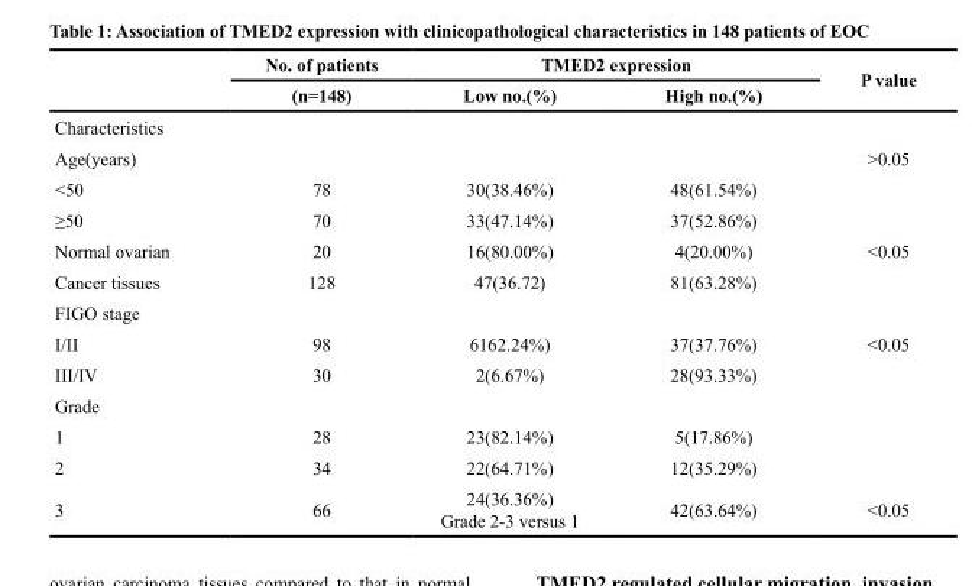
<table><thead><tr><td rowspan="2"></td><td rowspan="2">No. of patients (n=148)</td><td colspan="2">TMED2 expression</td><td rowspan="2">P value</td></tr><tr><td>Low no.(%)</td><td>High no.(%)</td></tr></thead><tbody><tr><td colspan="5">Characteristics</td></tr><tr><td>Age(years)</td><td></td><td></td><td></td><td>&gt;0.05</td></tr><tr><td>&lt;50</td><td>78</td><td>30(38.46%)</td><td>48(61.54%)</td><td></td></tr><tr><td>≥50</td><td>70</td><td>33(47.14%)</td><td>37(52.86%)</td><td></td></tr><tr><td>Normal ovarian</td><td>20</td><td>16(80.00%)</td><td>4(20.00%)</td><td>&lt;0.05</td></tr><tr><td>Cancer tissues</td><td>128</td><td>47(36.72)</td><td>81(63.28%)</td><td></td></tr><tr><td colspan="5">FIGO stage</td></tr><tr><td>I/II</td><td>98</td><td>6162.24%)</td><td>37(37.76%)</td><td>&lt;0.05</td></tr><tr><td>III/IV</td><td>30</td><td>2(6.67%)</td><td>28(93.33%)</td><td></td></tr><tr><td colspan="5">Grade</td></tr><tr><td>1</td><td>28</td><td>23(82.14%)</td><td>5(17.86%)</td><td></td></tr><tr><td>2</td><td>34</td><td>22(64.71%)</td><td>12(35.29%)</td><td></td></tr><tr><td>3</td><td>66</td><td>24(36.36%) Grade 2-3 versus 1</td><td>42(63.64%)</td><td>&lt;0.05</td></tr></tbody></table>